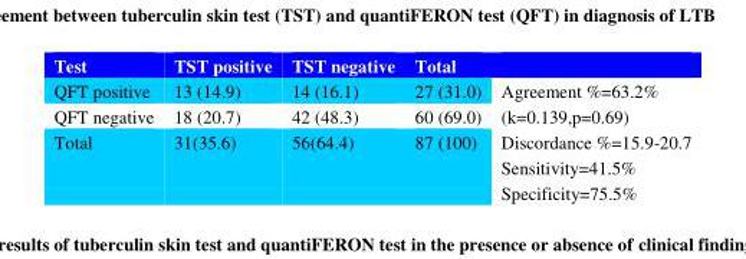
<table><thead><tr><td>Test</td><td>TST positive</td><td>TST negative</td><td>Total</td><td></td></tr></thead><tbody><tr><td>QFT positive</td><td>13 (14.9)</td><td>14 (16.1)</td><td>27 (31.0)</td><td rowspan="3">Agreement %=63.2% (k=0.139,p=0.69) Discordance %=15.9-20.7 Sensitivity=41.5% Specificity=75.5%</td></tr><tr><td>QFT negative</td><td>18 (20.7)</td><td>42 (48.3)</td><td>60 (69.0)</td></tr><tr><td>Total</td><td>31(35.6)</td><td>56(64.4)</td><td>87 (100)</td></tr></tbody></table>